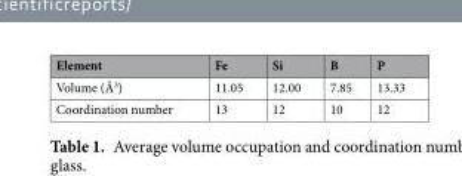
<table><thead><tr><td>Element</td><td>Fe</td><td>Si</td><td>B</td><td>P</td></tr></thead><tbody><tr><td>Volume (Å<sup>3</sup>)</td><td>11.05</td><td>12.00</td><td>7.85</td><td>13.33</td></tr><tr><td>Coordination number</td><td>13</td><td>12</td><td>10</td><td>12</td></tr></tbody></table>